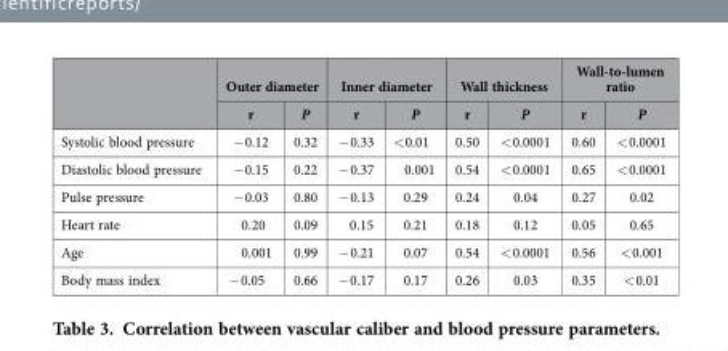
<table><thead><tr><td rowspan="2"></td><td colspan="2">Outer diameter</td><td colspan="2">Inner diameter</td><td colspan="2">Wall thickness</td><td colspan="2">Wall-to-lumen ratio</td></tr><tr><td>r</td><td>P</td><td>r</td><td>P</td><td>r</td><td>P</td><td>r</td><td>P</td></tr></thead><tbody><tr><td>Systolic blood pressure</td><td>− 0.12</td><td>0.32</td><td>− 0.33</td><td>&lt; 0.01</td><td>0.50</td><td>&lt; 0.0001</td><td>0.60</td><td>&lt; 0.0001</td></tr><tr><td>Diastolic blood pressure</td><td>− 0.15</td><td>0.22</td><td>− 0.37</td><td>0.001</td><td>0.54</td><td>&lt; 0.0001</td><td>0.65</td><td>&lt; 0.0001</td></tr><tr><td>Pulse pressure</td><td>− 0.03</td><td>0.80</td><td>− 0.13</td><td>0.29</td><td>0.24</td><td>0.04</td><td>0.27</td><td>0.02</td></tr><tr><td>Heart rate</td><td>0.20</td><td>0.09</td><td>0.15</td><td>0.21</td><td>0.18</td><td>0.12</td><td>0.05</td><td>0.65</td></tr><tr><td>Age</td><td>0.001</td><td>0.99</td><td>− 0.21</td><td>0.07</td><td>0.54</td><td>&lt; 0.0001</td><td>0.56</td><td>&lt; 0.001</td></tr><tr><td>Body mass index</td><td>− 0.05</td><td>0.66</td><td>− 0.17</td><td>0.17</td><td>0.26</td><td>0.03</td><td>0.35</td><td>&lt; 0.01</td></tr></tbody></table>